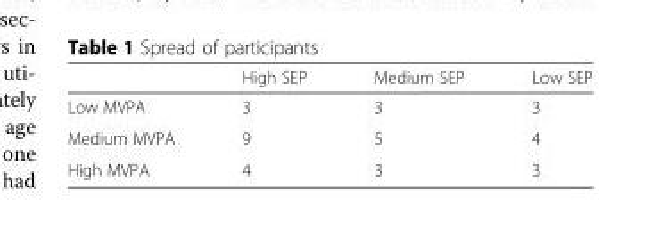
<table><thead><tr><td></td><td>High SEP</td><td>Medium SEP</td><td>Low SEP</td></tr></thead><tbody><tr><td>Low MVPA</td><td>3</td><td>3</td><td>3</td></tr><tr><td>Medium MVPA</td><td>9</td><td>5</td><td>4</td></tr><tr><td>High MVPA</td><td>4</td><td>3</td><td>3</td></tr></tbody></table>